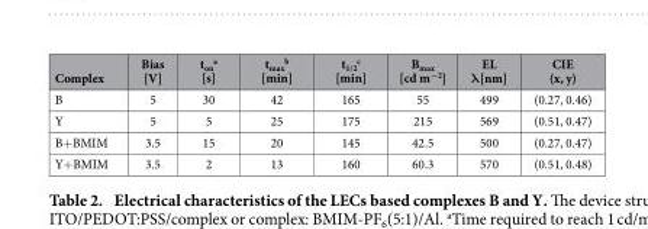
<table><thead><tr><td>Complex</td><td>Bias [V]</td><td>t<sub>on</sub> <sup>a</sup> [s]</td><td>t<sub>max</sub> <sup>b</sup> [min]</td><td>t<sub>1/2</sub> <sup>c</sup> [min]</td><td>B<sub>max</sub> [cd m<sup>−2</sup>]</td><td>EL λ[nm]</td><td>CIE (x, y)</td></tr></thead><tbody><tr><td>B</td><td>5</td><td>30</td><td>42</td><td>165</td><td>55</td><td>499</td><td>(0.27, 0.46)</td></tr><tr><td>Y</td><td>5</td><td>5</td><td>25</td><td>175</td><td>215</td><td>569</td><td>(0.51, 0.47)</td></tr><tr><td>B+ BMIM</td><td>3.5</td><td>15</td><td>20</td><td>145</td><td>42.5</td><td>500</td><td>(0.27, 0.47)</td></tr><tr><td>Y+ BMIM</td><td>3.5</td><td>2</td><td>13</td><td>160</td><td>60.3</td><td>570</td><td>(0.51, 0.48)</td></tr></tbody></table>